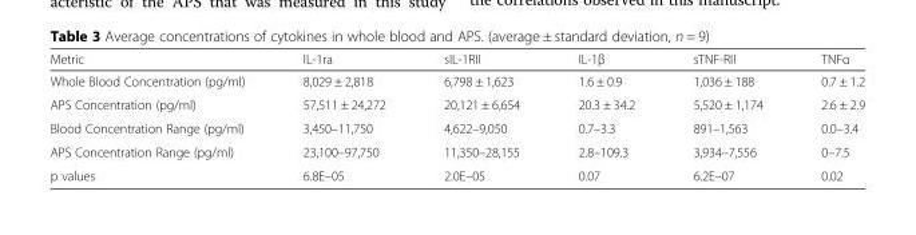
<table><thead><tr><td>Metric</td><td>IL-1ra</td><td>sIL-1RII</td><td>IL-1β</td><td>sTNF-RII</td><td>TNFα</td></tr></thead><tbody><tr><td>Whole Blood Concentration (pg/ml)</td><td>8,029 ± 2,818</td><td>6,798 ± 1,623</td><td>1.6 ± 0.9</td><td>1,036 ± 188</td><td>0.7 ± 1.2</td></tr><tr><td>APS Concentration (pg/ml)</td><td>57,511 ± 24,272</td><td>20,121 ± 6,654</td><td>20.3 ± 34.2</td><td>5,520 ± 1,174</td><td>2.6 ± 2.9</td></tr><tr><td>Blood Concentration Range (pg/ml)</td><td>3,450–11,750</td><td>4,622–9,050</td><td>0.7–3.3</td><td>891–1,563</td><td>0.0–3.4</td></tr><tr><td>APS Concentration Range (pg/ml)</td><td>23,100–97,750</td><td>11,350–28,155</td><td>2.8–109.3</td><td>3,934–7,556</td><td>0–7.5</td></tr><tr><td>p values</td><td>6.8E–05</td><td>2.0E–05</td><td>0.07</td><td>6.2E–07</td><td>0.02</td></tr></tbody></table>